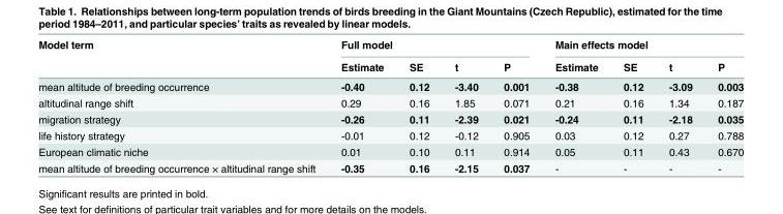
<table><thead><tr><td rowspan="2">Model term</td><td colspan="4">Full model</td><td colspan="4">Main effects model</td></tr><tr><td>Estimate</td><td>SE</td><td>t</td><td>P</td><td>Estimate</td><td>SE</td><td>t</td><td>P</td></tr></thead><tbody><tr><td>mean altitude of breeding occurrence</td><td>-0.40</td><td>0.12</td><td>-3.40</td><td>0.001</td><td>-0.38</td><td>0.12</td><td>-3.09</td><td>0.003</td></tr><tr><td>altitudinal range shift</td><td>0.29</td><td>0.16</td><td>1.85</td><td>0.071</td><td>0.21</td><td>0.16</td><td>1.34</td><td>0.187</td></tr><tr><td>migration strategy</td><td>-0.26</td><td>0.11</td><td>-2.39</td><td>0.021</td><td>-0.24</td><td>0.11</td><td>-2.18</td><td>0.035</td></tr><tr><td>life history strategy</td><td>-0.01</td><td>0.12</td><td>-0.12</td><td>0.905</td><td>0.03</td><td>0.12</td><td>0.27</td><td>0.788</td></tr><tr><td>European climatic niche</td><td>0.01</td><td>0.10</td><td>0.11</td><td>0.914</td><td>0.05</td><td>0.11</td><td>0.43</td><td>0.670</td></tr><tr><td>mean altitude of breeding occurrence × altitudinal range shift</td><td>-0.35</td><td>0.16</td><td>-2.15</td><td>0.037</td><td>-</td><td>-</td><td>-</td><td>-</td></tr></tbody></table>